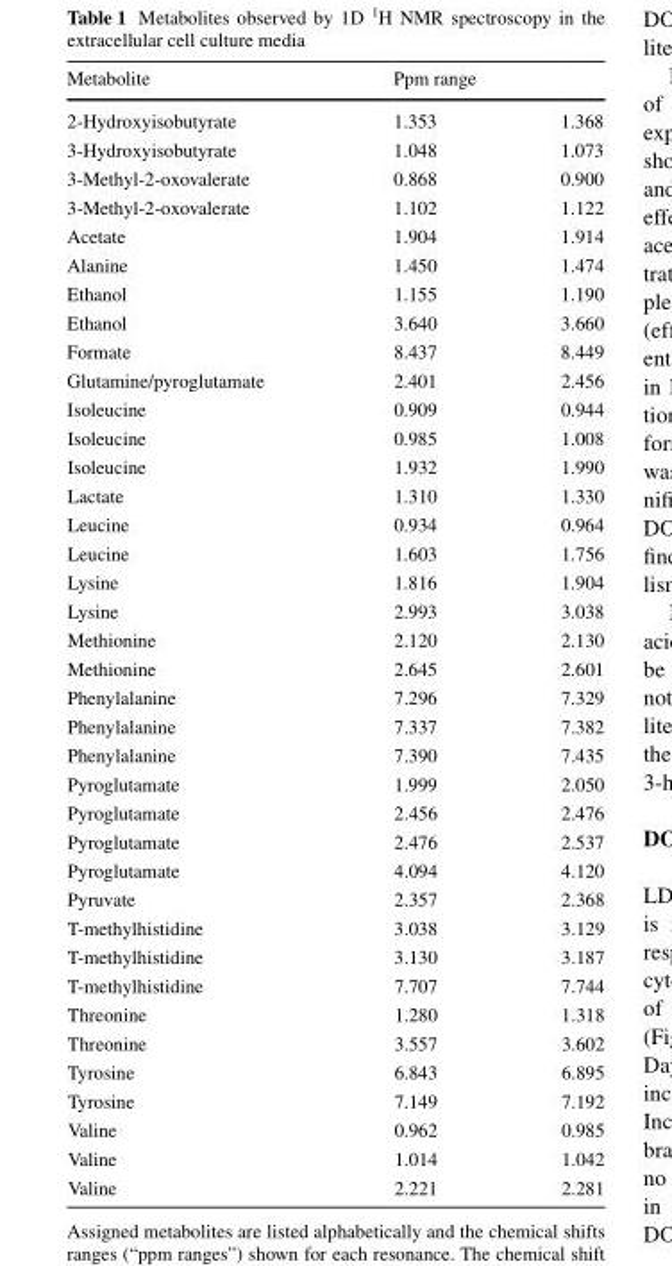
<table><thead><tr><td rowspan="2">Metabolite 2-Hydroxyisobutyrate</td><td colspan="2">Ppm range</td></tr><tr><td>1.353</td><td>1.368</td></tr></thead><tbody><tr><td>3-Hydroxyisobutyrate</td><td>1.048</td><td>1.073</td></tr><tr><td>3-Methyl-2-oxovalerate</td><td>0.868</td><td>0.900</td></tr><tr><td>3-Methyl-2-oxovalerate</td><td>1.102</td><td>1.122</td></tr><tr><td>Acetate</td><td>1.904</td><td>1.914</td></tr><tr><td>Alanine</td><td>1.450</td><td>1.474</td></tr><tr><td>Ethanol</td><td>1.155</td><td>1.190</td></tr><tr><td>Ethanol</td><td>3.640</td><td>3.660</td></tr><tr><td>Formate</td><td>8.437</td><td>8.449</td></tr><tr><td>Glutamine/pyroglutamate</td><td>2.401</td><td>2.456</td></tr><tr><td>Isoleucine</td><td>0.909</td><td>0.944</td></tr><tr><td>Isoleucine</td><td>0.985</td><td>1.008</td></tr><tr><td>Isoleucine</td><td>1.932</td><td>1.990</td></tr><tr><td>Lactate</td><td>1.310</td><td>1.330</td></tr><tr><td>Leucine</td><td>0.934</td><td>0.964</td></tr><tr><td>Leucine</td><td>1.603</td><td>1.756</td></tr><tr><td>Lysine</td><td>1.816</td><td>1.904</td></tr><tr><td>Lysine</td><td>2.993</td><td>3.038</td></tr><tr><td>Methionine</td><td>2.120</td><td>2.130</td></tr><tr><td>Methionine</td><td>2.645</td><td>2.601</td></tr><tr><td>Phenylalanine</td><td>7.296</td><td>7.329</td></tr><tr><td>Phenylalanine</td><td>7.337</td><td>7.382</td></tr><tr><td>Phenylalanine</td><td>7.390</td><td>7.435</td></tr><tr><td>Pyroglutamate</td><td>1.999</td><td>2.050</td></tr><tr><td>Pyroglutamate</td><td>2.456</td><td>2.476</td></tr><tr><td>Pyroglutamate</td><td>2.476</td><td>2.537</td></tr><tr><td>Pyroglutamate</td><td>4.094</td><td>4.120</td></tr><tr><td>Pyruvate</td><td>2.357</td><td>2.368</td></tr><tr><td>T-methylhistidine</td><td>3.038</td><td>3.129</td></tr><tr><td>T-methylhistidine</td><td>3.130</td><td>3.187</td></tr><tr><td>T-methylhistidine</td><td>7.707</td><td>7.744</td></tr><tr><td>Threonine</td><td>1.280</td><td>1.318</td></tr><tr><td>Threonine</td><td>3.557</td><td>3.602</td></tr><tr><td>Tyrosine</td><td>6.843</td><td>6.895</td></tr><tr><td>Tyrosine</td><td>7.149</td><td>7.192</td></tr><tr><td>Valine</td><td>0.962</td><td>0.985</td></tr><tr><td>Valine</td><td>1.014</td><td>1.042</td></tr><tr><td>Valine</td><td>2.221</td><td>2.281</td></tr></tbody></table>